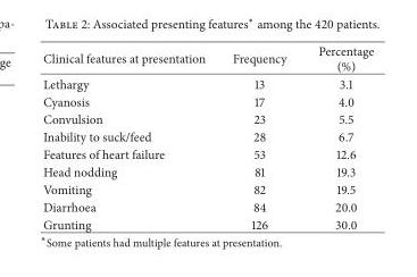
<table><thead><tr><td>Clinical features at presentation</td><td>Frequency</td><td>Percentage (%)</td></tr></thead><tbody><tr><td>Lethargy</td><td>13</td><td>3.1</td></tr><tr><td>Cyanosis</td><td>17</td><td>4.0</td></tr><tr><td>Convulsion</td><td>23</td><td>5.5</td></tr><tr><td>Inability to suck/feed</td><td>28</td><td>6.7</td></tr><tr><td>Features of heart failure</td><td>53</td><td>12.6</td></tr><tr><td>Head nodding</td><td>81</td><td>19.3</td></tr><tr><td>Vomiting</td><td>82</td><td>19.5</td></tr><tr><td>Diarrhoea</td><td>84</td><td>20.0</td></tr><tr><td>Grunting</td><td>126</td><td>30.0</td></tr></tbody></table>